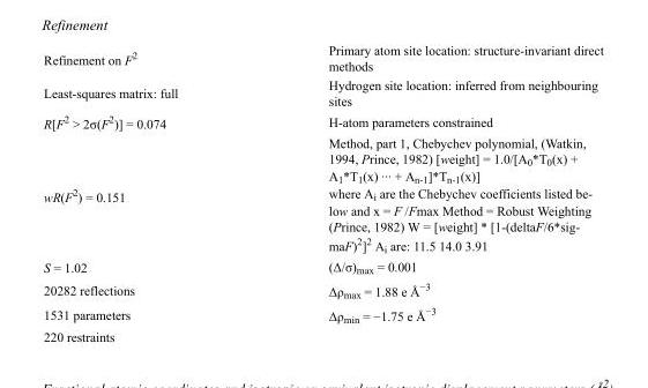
<table><tbody><tr><td>Refinement on F<sup>2</sup></td><td>Primary atom site location: structure-invariant direct methods</td></tr><tr><td>Least-squares matrix: full</td><td>Hydrogen site location: inferred from neighbouring sites</td></tr><tr><td>R[F<sup>2</sup> &gt; 2σ(F<sup>2</sup>)] = 0.074</td><td>H-atom parameters constrained</td></tr><tr><td>wR(F<sup>2</sup>) = 0.151</td><td>Method, part 1, Chebychev polynomial, (Watkin, 1994, Prince, 1982) [weight] = 1.0/[A0*T0(x) + A1*T1(x) ··· + An-1]*Tn-1(x)] where Ai are the Chebychev coefficients listed be- low and x = F /Fmax Method = Robust Weighting (Prince, 1982) W = [weight] * [1-(deltaF/6*sig- maF)2]2 Ai are: 11.5 14.0 3.91</td></tr><tr><td>S = 1.02</td><td>(Δ/σ)<sub>max</sub> = 0.001</td></tr><tr><td>20282 reflections</td><td>Δρ<sub>max</sub> = 1.88 e Å<sup>−3</sup></td></tr><tr><td>1531 parameters</td><td>Δρ<sub>min</sub> = −1.75 e Å<sup>−3</sup></td></tr><tr><td>220 restraints</td><td></td></tr></tbody></table>